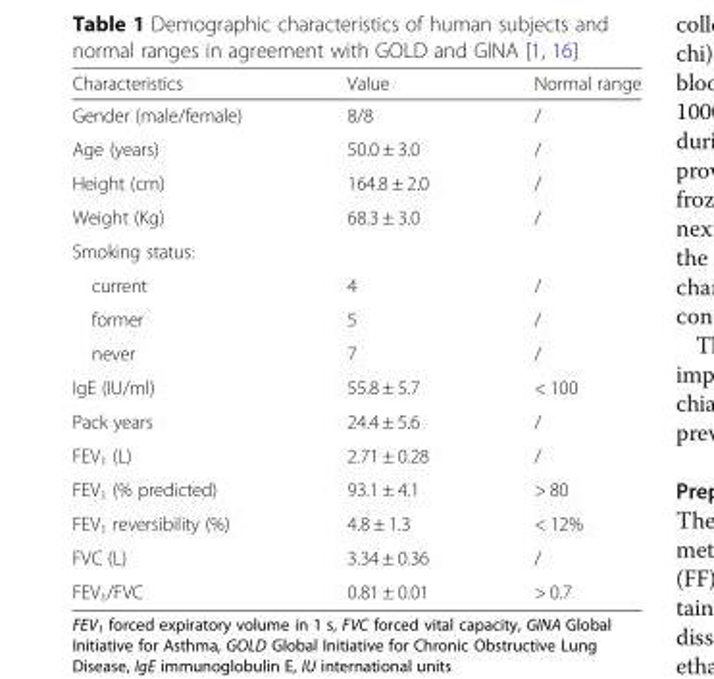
<table><thead><tr><td>Characteristics</td><td>Value</td><td>Normal range</td></tr></thead><tbody><tr><td>Gender (male/female)</td><td>8/8</td><td>/</td></tr><tr><td>Age (years)</td><td>50.0 ± 3.0</td><td>/</td></tr><tr><td>Height (cm)</td><td>164.8 ± 2.0</td><td>/</td></tr><tr><td>Weight (Kg)</td><td>68.3 ± 3.0</td><td>/</td></tr><tr><td colspan="3">Smoking status:</td></tr><tr><td>current</td><td>4</td><td>/</td></tr><tr><td>former</td><td>5</td><td>/</td></tr><tr><td>never</td><td>7</td><td>/</td></tr><tr><td>IgE (IU/ml)</td><td>55.8 ± 5.7</td><td>&lt; 100</td></tr><tr><td>Pack years</td><td>24.4 ± 5.6</td><td>/</td></tr><tr><td>FEV<sub>1</sub> (L)</td><td>2.71 ± 0.28</td><td>/</td></tr><tr><td>FEV<sub>1</sub> (% predicted)</td><td>93.1 ± 4.1</td><td>&gt; 80</td></tr><tr><td>FEV<sub>1</sub> reversibility (%)</td><td>4.8 ± 1.3</td><td>&lt; 12%</td></tr><tr><td>FVC (L)</td><td>3.34 ± 0.36</td><td>/</td></tr><tr><td>FEV<sub>1</sub>/FVC</td><td>0.81 ± 0.01</td><td>&gt; 0.7</td></tr></tbody></table>